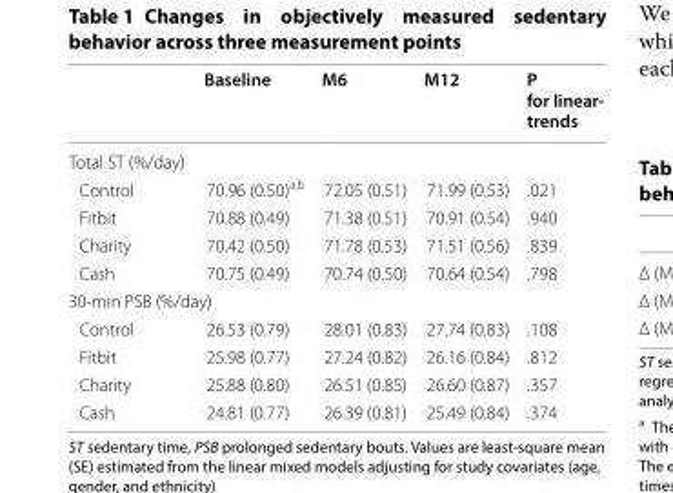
<table><thead><tr><td></td><td>Baseline</td><td>M6</td><td>M12</td><td>P for linear- trends</td></tr></thead><tbody><tr><td colspan="5">Total ST (%/day)</td></tr><tr><td>Control</td><td>70.96 (0.50)<sup>a,b</sup></td><td>72.05 (0.51)</td><td>71.99 (0.53)</td><td>.021</td></tr><tr><td>Fitbit</td><td>70.88 (0.49)</td><td>71.38 (0.51)</td><td>70.91 (0.54)</td><td>.940</td></tr><tr><td>Charity</td><td>70.42 (0.50)</td><td>71.78 (0.53)</td><td>71.51 (0.56)</td><td>.839</td></tr><tr><td>Cash</td><td>70.75 (0.49)</td><td>70.74 (0.50)</td><td>70.64 (0.54)</td><td>.798</td></tr><tr><td colspan="5">30‑min PSB (%/day)</td></tr><tr><td>Control</td><td>26.53 (0.79)</td><td>28.01 (0.83)</td><td>27.74 (0.83)</td><td>.108</td></tr><tr><td>Fitbit</td><td>25.98 (0.77)</td><td>27.24 (0.82)</td><td>26.16 (0.84)</td><td>.812</td></tr><tr><td>Charity</td><td>25.88 (0.80)</td><td>26.51 (0.85)</td><td>26.60 (0.87)</td><td>.357</td></tr><tr><td>Cash</td><td>24.81 (0.77)</td><td>26.39 (0.81)</td><td>25.49 (0.84)</td><td>.374</td></tr></tbody></table>